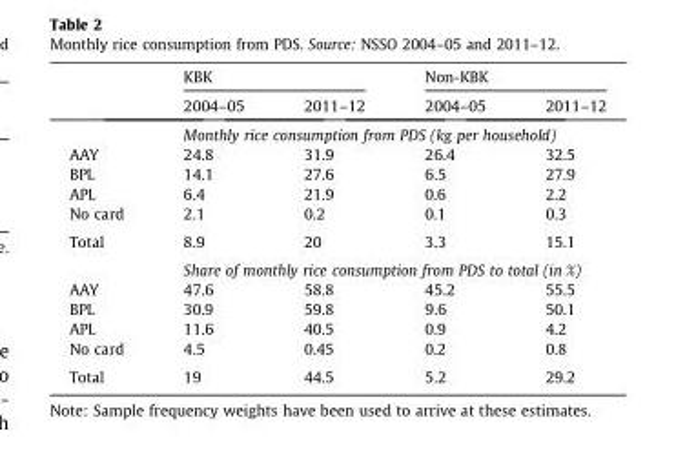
<table><thead><tr><td rowspan="2"></td><td colspan="2">KBK</td><td colspan="2">Non-KBK</td></tr><tr><td>2004–05</td><td>2011–12</td><td>2004–05</td><td>2011–12</td></tr></thead><tbody><tr><td></td><td colspan="4">Monthly rice consumption from PDS (kg per household)</td></tr><tr><td>AAY</td><td>24.8</td><td>31.9</td><td>26.4</td><td>32.5</td></tr><tr><td>BPL</td><td>14.1</td><td>27.6</td><td>6.5</td><td>27.9</td></tr><tr><td>APL</td><td>6.4</td><td>21.9</td><td>0.6</td><td>2.2</td></tr><tr><td>No card</td><td>2.1</td><td>0.2</td><td>0.1</td><td>0.3</td></tr><tr><td rowspan="2">Total</td><td>8.9</td><td>20</td><td>3.3</td><td>15.1</td></tr><tr><td colspan="4">Share of monthly rice consumption from PDS to total (in %)</td></tr><tr><td>AAY</td><td>47.6</td><td>58.8</td><td>45.2</td><td>55.5</td></tr><tr><td>BPL</td><td>30.9</td><td>59.8</td><td>9.6</td><td>50.1</td></tr><tr><td>APL</td><td>11.6</td><td>40.5</td><td>0.9</td><td>4.2</td></tr><tr><td>No card</td><td>4.5</td><td>0.45</td><td>0.2</td><td>0.8</td></tr><tr><td>Total</td><td>19</td><td>44.5</td><td>5.2</td><td>29.2</td></tr></tbody></table>